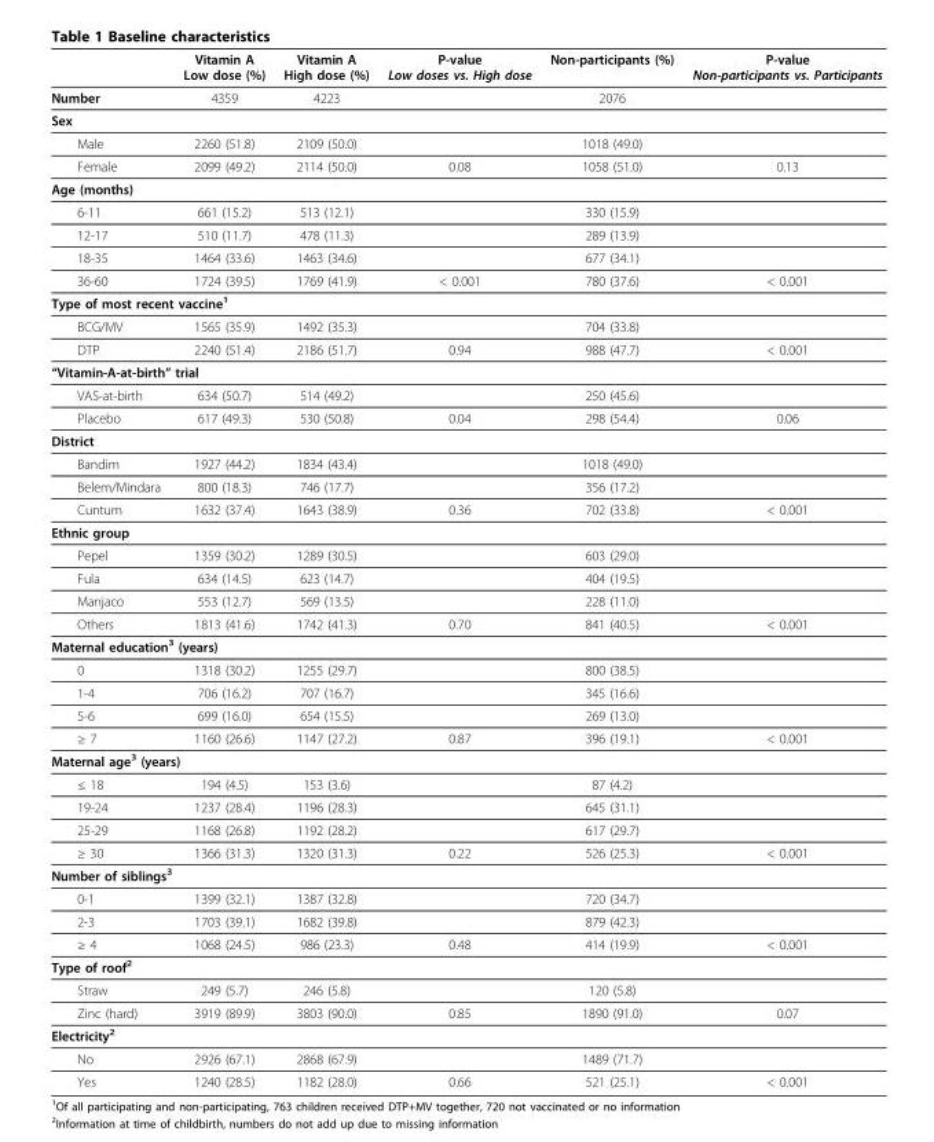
<table><thead><tr><td></td><td>Vitamin A Low dose (%)</td><td>Vitamin A High dose (%)</td><td>P-value Low doses vs. High dose</td><td>Non-participants (%)</td><td>P-value Non-participants vs. Participants</td></tr></thead><tbody><tr><td>Number</td><td>4359</td><td>4223</td><td></td><td>2076</td><td></td></tr><tr><td colspan="6">Sex</td></tr><tr><td>Male</td><td>2260 (51.8)</td><td>2109 (50.0)</td><td></td><td>1018 (49.0)</td><td></td></tr><tr><td>Female</td><td>2099 (49.2)</td><td>2114 (50.0)</td><td>0.08</td><td>1058 (51.0)</td><td>0.13</td></tr><tr><td colspan="6">Age (months)</td></tr><tr><td>6-11</td><td>661 (15.2)</td><td>513 (12.1)</td><td></td><td>330 (15.9)</td><td></td></tr><tr><td>12-17</td><td>510 (11.7)</td><td>478 (11.3)</td><td></td><td>289 (13.9)</td><td></td></tr><tr><td>18-35</td><td>1464 (33.6)</td><td>1463 (34.6)</td><td></td><td>677 (34.1)</td><td></td></tr><tr><td>36-60</td><td>1724 (39.5)</td><td>1769 (41.9)</td><td>&lt; 0.001</td><td>780 (37.6)</td><td>&lt; 0.001</td></tr><tr><td colspan="6">Type of most recent vaccine1</td></tr><tr><td>BCG/MV</td><td>1565 (35.9)</td><td>1492 (35.3)</td><td></td><td>704 (33.8)</td><td></td></tr><tr><td>DTP</td><td>2240 (51.4)</td><td>2186 (51.7)</td><td>0.94</td><td>988 (47.7)</td><td>&lt; 0.001</td></tr><tr><td colspan="6">“Vitamin-A-at-birth” trial</td></tr><tr><td>VAS-at-birth</td><td>634 (50.7)</td><td>514 (49.2)</td><td></td><td>250 (45.6)</td><td></td></tr><tr><td>Placebo</td><td>617 (49.3)</td><td>530 (50.8)</td><td>0.04</td><td>298 (54.4)</td><td>0.06</td></tr><tr><td colspan="6">District</td></tr><tr><td>Bandim</td><td>1927 (44.2)</td><td>1834 (43.4)</td><td></td><td>1018 (49.0)</td><td></td></tr><tr><td>Belem/Mindara</td><td>800 (18.3)</td><td>746 (17.7)</td><td></td><td>356 (17.2)</td><td></td></tr><tr><td>Cuntum</td><td>1632 (37.4)</td><td>1643 (38.9)</td><td>0.36</td><td>702 (33.8)</td><td>&lt; 0.001</td></tr><tr><td colspan="6">Ethnic group</td></tr><tr><td>Pepel</td><td>1359 (30.2)</td><td>1289 (30.5)</td><td></td><td>603 (29.0)</td><td></td></tr><tr><td>Fula</td><td>634 (14.5)</td><td>623 (14.7)</td><td></td><td>404 (19.5)</td><td></td></tr><tr><td>Manjaco</td><td>553 (12.7)</td><td>569 (13.5)</td><td></td><td>228 (11.0)</td><td></td></tr><tr><td>Others</td><td>1813 (41.6)</td><td>1742 (41.3)</td><td>0.70</td><td>841 (40.5)</td><td>&lt; 0.001</td></tr><tr><td colspan="6">Maternal education3 (years)</td></tr><tr><td>0</td><td>1318 (30.2)</td><td>1255 (29.7)</td><td></td><td>800 (38.5)</td><td></td></tr><tr><td>1-4</td><td>706 (16.2)</td><td>707 (16.7)</td><td></td><td>345 (16.6)</td><td></td></tr><tr><td>5-6</td><td>699 (16.0)</td><td>654 (15.5)</td><td></td><td>269 (13.0)</td><td></td></tr><tr><td>≥ 7</td><td>1160 (26.6)</td><td>1147 (27.2)</td><td>0.87</td><td>396 (19.1)</td><td>&lt; 0.001</td></tr><tr><td colspan="6">Maternal age3 (years)</td></tr><tr><td>≤ 18</td><td>194 (4.5)</td><td>153 (3.6)</td><td></td><td>87 (4.2)</td><td></td></tr><tr><td>19-24</td><td>1237 (28.4)</td><td>1196 (28.3)</td><td></td><td>645 (31.1)</td><td></td></tr><tr><td>25-29</td><td>1168 (26.8)</td><td>1192 (28.2)</td><td></td><td>617 (29.7)</td><td></td></tr><tr><td>≥ 30</td><td>1366 (31.3)</td><td>1320 (31.3)</td><td>0.22</td><td>526 (25.3)</td><td>&lt; 0.001</td></tr><tr><td colspan="6">Number of siblings3</td></tr><tr><td>0-1</td><td>1399 (32.1)</td><td>1387 (32.8)</td><td></td><td>720 (34.7)</td><td></td></tr><tr><td>2-3</td><td>1703 (39.1)</td><td>1682 (39.8)</td><td></td><td>879 (42.3)</td><td></td></tr><tr><td>≥ 4</td><td>1068 (24.5)</td><td>986 (23.3)</td><td>0.48</td><td>414 (19.9)</td><td>&lt; 0.001</td></tr><tr><td colspan="6">Type of roof2</td></tr><tr><td>Straw</td><td>249 (5.7)</td><td>246 (5.8)</td><td></td><td>120 (5.8)</td><td></td></tr><tr><td>Zinc (hard)</td><td>3919 (89.9)</td><td>3803 (90.0)</td><td>0.85</td><td>1890 (91.0)</td><td>0.07</td></tr><tr><td colspan="6">Electricity2</td></tr><tr><td>No</td><td>2926 (67.1)</td><td>2868 (67.9)</td><td></td><td>1489 (71.7)</td><td></td></tr><tr><td>Yes</td><td>1240 (28.5)</td><td>1182 (28.0)</td><td>0.66</td><td>521 (25.1)</td><td>&lt; 0.001</td></tr></tbody></table>